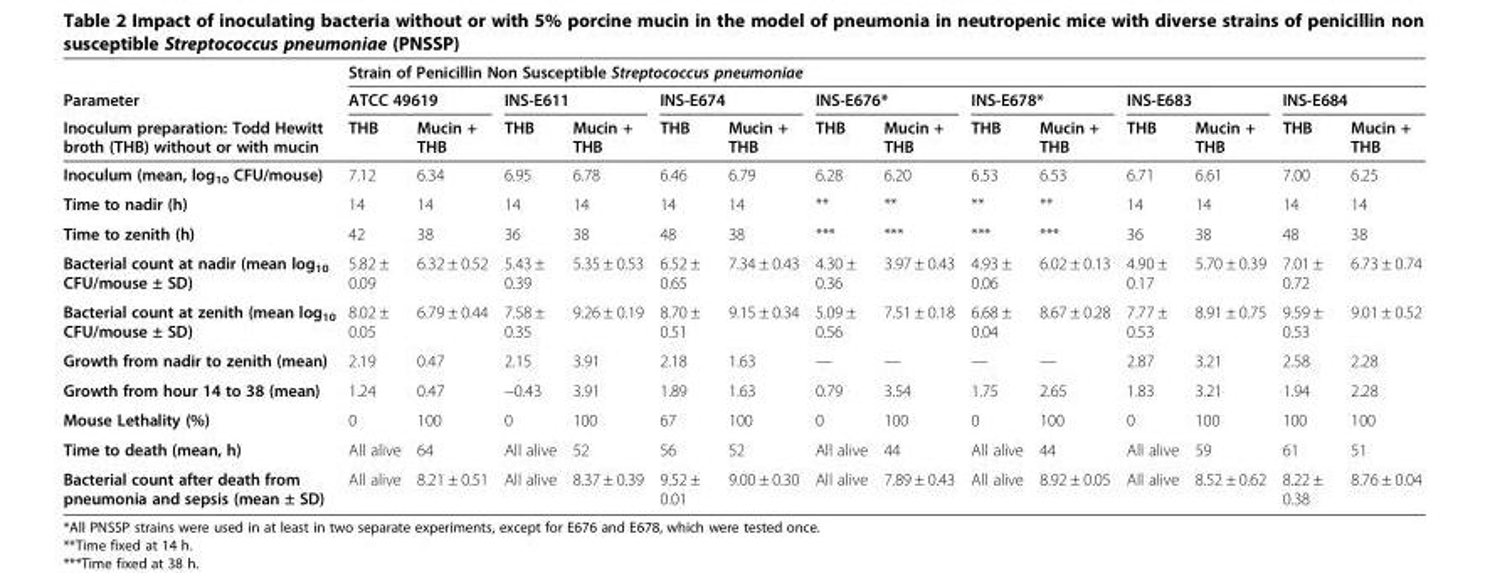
<table><thead><tr><td rowspan="3">Parameter Inoculum preparation: Todd Hewitt broth (THB) without or with mucin</td><td colspan="14">Strain of Penicillin Non Susceptible Streptococcus pneumoniae</td></tr><tr><td colspan="2">ATCC 49619</td><td colspan="2">INS-E611</td><td colspan="2">INS-E674</td><td colspan="2">INS-E676*</td><td colspan="2">INS-E678*</td><td colspan="2">INS-E683</td><td colspan="2">INS-E684</td></tr><tr><td>THB</td><td>Mucin + THB</td><td>THB</td><td>Mucin + THB</td><td>THB</td><td>Mucin + THB</td><td>THB</td><td>Mucin + THB</td><td>THB</td><td>Mucin + THB</td><td>THB</td><td>Mucin + THB</td><td>THB</td><td>Mucin + THB</td></tr></thead><tbody><tr><td>Inoculum (mean, log<sub>10</sub> CFU/mouse)</td><td>7.12</td><td>6.34</td><td>6.95</td><td>6.78</td><td>6.46</td><td>6.79</td><td>6.28</td><td>6.20</td><td>6.53</td><td>6.53</td><td>6.71</td><td>6.61</td><td>7.00</td><td>6.25</td></tr><tr><td>Time to nadir (h)</td><td>14</td><td>14</td><td>14</td><td>14</td><td>14</td><td>14</td><td>**</td><td>**</td><td>**</td><td>**</td><td>14</td><td>14</td><td>14</td><td>14</td></tr><tr><td>Time to zenith (h)</td><td>42</td><td>38</td><td>36</td><td>38</td><td>48</td><td>38</td><td>***</td><td>***</td><td>***</td><td>***</td><td>36</td><td>38</td><td>48</td><td>38</td></tr><tr><td>Bacterial count at nadir (mean log<sub>10</sub> CFU/mouse ± SD)</td><td>5.82 ± 0.09</td><td>6.32 ± 0.52</td><td>5.43 ± 0.39</td><td>5.35 ± 0.53</td><td>6.52 ± 0.65</td><td>7.34 ± 0.43</td><td>4.30 ± 0.36</td><td>3.97 ± 0.43</td><td>4.93 ± 0.06</td><td>6.02 ± 0.13</td><td>4.90 ± 0.17</td><td>5.70 ± 0.39</td><td>7.01 ± 0.72</td><td>6.73 ± 0.74</td></tr><tr><td>Bacterial count at zenith (mean log<sub>10</sub> CFU/mouse ± SD)</td><td>8.02 ± 0.05</td><td>6.79 ± 0.44</td><td>7.58 ± 0.35</td><td>9.26 ± 0.19</td><td>8.70 ± 0.51</td><td>9.15 ± 0.34</td><td>5.09 ± 0.56</td><td>7.51 ± 0.18</td><td>6.68 ± 0.04</td><td>8.67 ± 0.28</td><td>7.77 ± 0.53</td><td>8.91 ± 0.75</td><td>9.59 ± 0.53</td><td>9.01 ± 0.52</td></tr><tr><td>Growth from nadir to zenith (mean)</td><td>2.19</td><td>0.47</td><td>2.15</td><td>3.91</td><td>2.18</td><td>1.63</td><td>—</td><td>—</td><td>—</td><td>—</td><td>2.87</td><td>3.21</td><td>2.58</td><td>2.28</td></tr><tr><td>Growth from hour 14 to 38 (mean)</td><td>1.24</td><td>0.47</td><td>−0.43</td><td>3.91</td><td>1.89</td><td>1.63</td><td>0.79</td><td>3.54</td><td>1.75</td><td>2.65</td><td>1.83</td><td>3.21</td><td>1.94</td><td>2.28</td></tr><tr><td>Mouse Lethality (%)</td><td>0</td><td>100</td><td>0</td><td>100</td><td>67</td><td>100</td><td>0</td><td>100</td><td>0</td><td>100</td><td>0</td><td>100</td><td>100</td><td>100</td></tr><tr><td>Time to death (mean, h)</td><td>All alive</td><td>64</td><td>All alive</td><td>52</td><td>56</td><td>52</td><td>All alive</td><td>44</td><td>All alive</td><td>44</td><td>All alive</td><td>59</td><td>61</td><td>51</td></tr><tr><td>Bacterial count after death from pneumonia and sepsis (mean ± SD)</td><td>All alive</td><td>8.21 ± 0.51</td><td>All alive</td><td>8.37 ± 0.39</td><td>9.52 ± 0.01</td><td>9.00 ± 0.30</td><td>All alive</td><td>7.89 ± 0.43</td><td>All alive</td><td>8.92 ± 0.05</td><td>All alive</td><td>8.52 ± 0.62</td><td>8.22 ± 0.38</td><td>8.76 ± 0.04</td></tr></tbody></table>